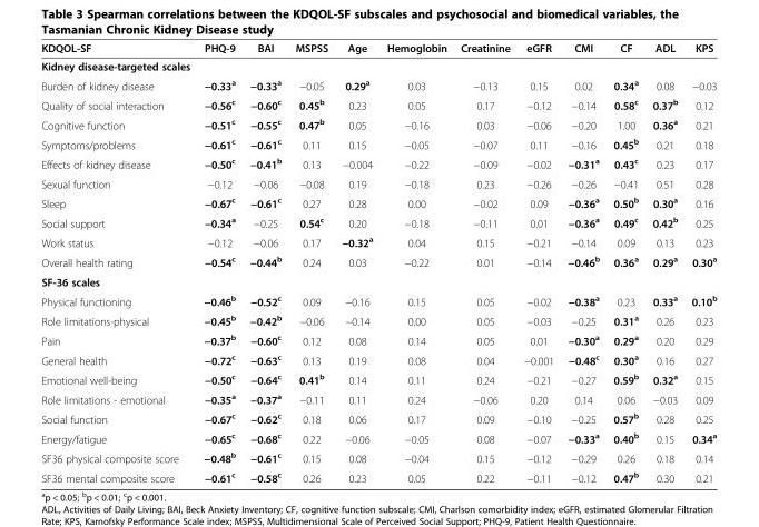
<table><thead><tr><td>KDQOL-SF</td><td>PHQ-9</td><td>BAI</td><td>MSPSS</td><td>Age</td><td>Hemoglobin</td><td>Creatinine</td><td>eGFR</td><td>CMI</td><td>CF</td><td>ADL</td><td>KPS</td></tr></thead><tbody><tr><td colspan="12">Kidney disease-targeted scales</td></tr><tr><td>Burden of kidney disease</td><td>−0.33<sup>a</sup></td><td>−0.33<sup>a</sup></td><td>−0.05</td><td>0.29<sup>a</sup></td><td>0.03</td><td>−0.13</td><td>0.15</td><td>0.02</td><td>0.34<sup>a</sup></td><td>0.08</td><td>−0.03</td></tr><tr><td>Quality of social interaction</td><td>−0.56<sup>c</sup></td><td>−0.60<sup>c</sup></td><td>0.45<sup>b</sup></td><td>0.23</td><td>0.05</td><td>0.17</td><td>−0.12</td><td>−0.14</td><td>0.58<sup>c</sup></td><td>0.37<sup>b</sup></td><td>0.12</td></tr><tr><td>Cognitive function</td><td>−0.51<sup>c</sup></td><td>−0.55<sup>c</sup></td><td>0.47<sup>b</sup></td><td>0.05</td><td>−0.16</td><td>0.03</td><td>−0.06</td><td>−0.20</td><td>1.00</td><td>0.36<sup>a</sup></td><td>0.21</td></tr><tr><td>Symptoms/problems</td><td>−0.61<sup>c</sup></td><td>−0.61<sup>c</sup></td><td>0.11</td><td>0.15</td><td>−0.05</td><td>−0.07</td><td>0.11</td><td>−0.16</td><td>0.45<sup>b</sup></td><td>0.21</td><td>0.18</td></tr><tr><td>Effects of kidney disease</td><td>−0.50<sup>c</sup></td><td>−0.41<sup>b</sup></td><td>0.13</td><td>−0.004</td><td>−0.22</td><td>−0.09</td><td>−0.02</td><td>−0.31<sup>a</sup></td><td>0.43<sup>c</sup></td><td>0.23</td><td>0.17</td></tr><tr><td>Sexual function</td><td>−0.12</td><td>−0.06</td><td>−0.08</td><td>0.19</td><td>−0.18</td><td>0.23</td><td>−0.26</td><td>−0.26</td><td>−0.41</td><td>0.51</td><td>0.28</td></tr><tr><td>Sleep</td><td>−0.67<sup>c</sup></td><td>−0.61<sup>c</sup></td><td>0.27</td><td>0.28</td><td>0.00</td><td>−0.02</td><td>0.09</td><td>−0.36<sup>a</sup></td><td>0.50<sup>b</sup></td><td>0.30<sup>a</sup></td><td>0.16</td></tr><tr><td>Social support</td><td>−0.34<sup>a</sup></td><td>−0.25</td><td>0.54<sup>c</sup></td><td>0.20</td><td>−0.18</td><td>−0.11</td><td>0.01</td><td>−0.36<sup>a</sup></td><td>0.49<sup>c</sup></td><td>0.42<sup>b</sup></td><td>0.25</td></tr><tr><td>Work status</td><td>−0.12</td><td>−0.06</td><td>0.17</td><td>−0.32<sup>a</sup></td><td>0.04</td><td>0.15</td><td>−0.21</td><td>−0.14</td><td>0.09</td><td>0.13</td><td>0.23</td></tr><tr><td>Overall health rating</td><td>−0.54<sup>c</sup></td><td>−0.44<sup>b</sup></td><td>0.24</td><td>0.03</td><td>−0.22</td><td>0.01</td><td>−0.14</td><td>−0.46<sup>b</sup></td><td>0.36<sup>a</sup></td><td>0.29<sup>a</sup></td><td>0.30<sup>a</sup></td></tr><tr><td colspan="12">SF-36 scales</td></tr><tr><td>Physical functioning</td><td>−0.46<sup>b</sup></td><td>−0.52<sup>c</sup></td><td>0.09</td><td>−0.16</td><td>0.15</td><td>0.05</td><td>−0.02</td><td>−0.38<sup>a</sup></td><td>0.23</td><td>0.33<sup>a</sup></td><td>0.10<sup>b</sup></td></tr><tr><td>Role limitations-physical</td><td>−0.45<sup>b</sup></td><td>−0.42<sup>b</sup></td><td>−0.06</td><td>−0.14</td><td>0.00</td><td>0.05</td><td>−0.03</td><td>−0.25</td><td>0.31<sup>a</sup></td><td>0.26</td><td>0.23</td></tr><tr><td>Pain</td><td>−0.37<sup>b</sup></td><td>−0.60<sup>c</sup></td><td>0.12</td><td>0.08</td><td>0.14</td><td>0.05</td><td>0.01</td><td>−0.30<sup>a</sup></td><td>0.29<sup>a</sup></td><td>0.20</td><td>0.29</td></tr><tr><td>General health</td><td>−0.72<sup>c</sup></td><td>−0.63<sup>c</sup></td><td>0.13</td><td>0.19</td><td>0.08</td><td>0.04</td><td>−0.001</td><td>−0.48<sup>c</sup></td><td>0.30<sup>a</sup></td><td>0.16</td><td>0.27</td></tr><tr><td>Emotional well-being</td><td>−0.50<sup>c</sup></td><td>−0.64<sup>c</sup></td><td>0.41<sup>b</sup></td><td>0.14</td><td>0.11</td><td>0.24</td><td>−0.21</td><td>−0.27</td><td>0.59<sup>b</sup></td><td>0.32<sup>a</sup></td><td>0.15</td></tr><tr><td>Role limitations - emotional</td><td>−0.35<sup>a</sup></td><td>−0.37<sup>a</sup></td><td>−0.11</td><td>0.11</td><td>0.24</td><td>−0.06</td><td>0.20</td><td>0.14</td><td>0.06</td><td>−0.03</td><td>0.09</td></tr><tr><td>Social function</td><td>−0.67<sup>c</sup></td><td>−0.62<sup>c</sup></td><td>0.18</td><td>0.06</td><td>0.17</td><td>0.09</td><td>−0.10</td><td>−0.25</td><td>0.57<sup>b</sup></td><td>0.28</td><td>0.25</td></tr><tr><td>Energy/fatigue</td><td>−0.65<sup>c</sup></td><td>−0.68<sup>c</sup></td><td>0.22</td><td>−0.06</td><td>−0.05</td><td>0.08</td><td>−0.07</td><td>−0.33<sup>a</sup></td><td>0.40<sup>b</sup></td><td>0.15</td><td>0.34<sup>a</sup></td></tr><tr><td>SF36 physical composite score</td><td>−0.48<sup>b</sup></td><td>−0.61<sup>c</sup></td><td>0.15</td><td>0.08</td><td>−0.04</td><td>0.15</td><td>−0.12</td><td>−0.29</td><td>0.26</td><td>0.18</td><td>0.14</td></tr><tr><td>SF36 mental composite score</td><td>−0.61<sup>c</sup></td><td>−0.58<sup>c</sup></td><td>0.26</td><td>0.23</td><td>0.05</td><td>0.22</td><td>−0.11</td><td>−0.12</td><td>0.47<sup>b</sup></td><td>0.30</td><td>0.21</td></tr></tbody></table>